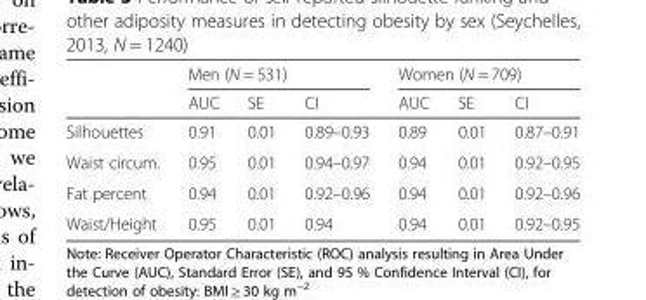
<table><thead><tr><td rowspan="2"></td><td colspan="3">Men (N = 531)</td><td colspan="3">Women (N = 709)</td></tr><tr><td>AUC</td><td>SE</td><td>CI</td><td>AUC</td><td>SE</td><td>CI</td></tr></thead><tbody><tr><td>Silhouettes</td><td>0.91</td><td>0.01</td><td>0.89–0.93</td><td>0.89</td><td>0.01</td><td>0.87–0.91</td></tr><tr><td>Waist circum.</td><td>0.95</td><td>0.01</td><td>0.94–0.97</td><td>0.94</td><td>0.01</td><td>0.92–0.95</td></tr><tr><td>Fat percent</td><td>0.94</td><td>0.01</td><td>0.92–0.96</td><td>0.94</td><td>0.01</td><td>0.92–0.96</td></tr><tr><td>Waist/Height</td><td>0.95</td><td>0.01</td><td>0.94</td><td>0.94</td><td>0.01</td><td>0.92–0.95</td></tr></tbody></table>